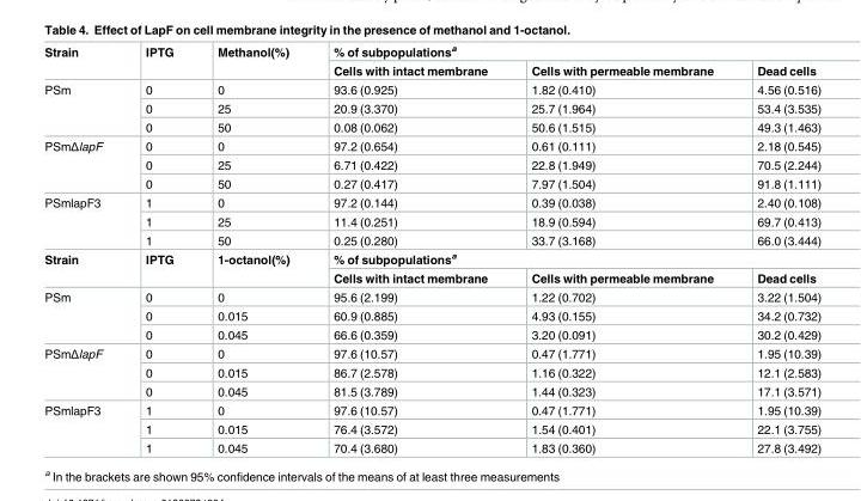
<table><tbody><tr><td rowspan="2">Strain</td><td rowspan="2">IPTG</td><td rowspan="2">Methanol(%)</td><td colspan="3">% of subpopulations<sup>a</sup></td></tr><tr><td>Cells with intact membrane</td><td>Cells with permeable membrane</td><td>Dead cells</td></tr><tr><td rowspan="3">PSm</td><td>0</td><td>0</td><td>93.6 (0.925)</td><td>1.82 (0.410)</td><td>4.56 (0.516)</td></tr><tr><td>0</td><td>25</td><td>20.9 (3.370)</td><td>25.7 (1.964)</td><td>53.4 (3.535)</td></tr><tr><td>0</td><td>50</td><td>0.08 (0.062)</td><td>50.6 (1.515)</td><td>49.3 (1.463)</td></tr><tr><td rowspan="3">PSmΔlapF</td><td>0</td><td>0</td><td>97.2 (0.654)</td><td>0.61 (0.111)</td><td>2.18 (0.545)</td></tr><tr><td>0</td><td>25</td><td>6.71 (0.422)</td><td>22.8 (1.949)</td><td>70.5 (2.244)</td></tr><tr><td>0</td><td>50</td><td>0.27 (0.417)</td><td>7.97 (1.504)</td><td>91.8 (1.111)</td></tr><tr><td rowspan="3">PSmlapF3</td><td>1</td><td>0</td><td>97.2 (0.144)</td><td>0.39 (0.038)</td><td>2.40 (0.108)</td></tr><tr><td>1</td><td>25</td><td>11.4 (0.251)</td><td>18.9 (0.594)</td><td>69.7 (0.413)</td></tr><tr><td>1</td><td>50</td><td>0.25 (0.280)</td><td>33.7 (3.168)</td><td>66.0 (3.444)</td></tr><tr><td rowspan="2">Strain</td><td rowspan="2">IPTG</td><td rowspan="2">1-octanol(%)</td><td colspan="3">% of subpopulations<sup>a</sup></td></tr><tr><td>Cells with intact membrane</td><td>Cells with permeable membrane</td><td>Dead cells</td></tr><tr><td rowspan="3">PSm</td><td>0</td><td>0</td><td>95.6 (2.199)</td><td>1.22 (0.702)</td><td>3.22 (1.504)</td></tr><tr><td>0</td><td>0.015</td><td>60.9 (0.885)</td><td>4.93 (0.155)</td><td>34.2 (0.732)</td></tr><tr><td>0</td><td>0.045</td><td>66.6 (0.359)</td><td>3.20 (0.091)</td><td>30.2 (0.429)</td></tr><tr><td rowspan="3">PSmΔlapF</td><td>0</td><td>0</td><td>97.6 (10.57)</td><td>0.47 (1.771)</td><td>1.95 (10.39)</td></tr><tr><td>0</td><td>0.015</td><td>86.7 (2.578)</td><td>1.16 (0.322)</td><td>12.1 (2.583)</td></tr><tr><td>0</td><td>0.045</td><td>81.5 (3.789)</td><td>1.44 (0.323)</td><td>17.1 (3.571)</td></tr><tr><td rowspan="3">PSmlapF3</td><td>1</td><td>0</td><td>97.6 (10.57)</td><td>0.47 (1.771)</td><td>1.95 (10.39)</td></tr><tr><td>1</td><td>0.015</td><td>76.4 (3.572)</td><td>1.54 (0.401)</td><td>22.1 (3.755)</td></tr><tr><td>1</td><td>0.045</td><td>70.4 (3.680)</td><td>1.83 (0.360)</td><td>27.8 (3.492)</td></tr></tbody></table>